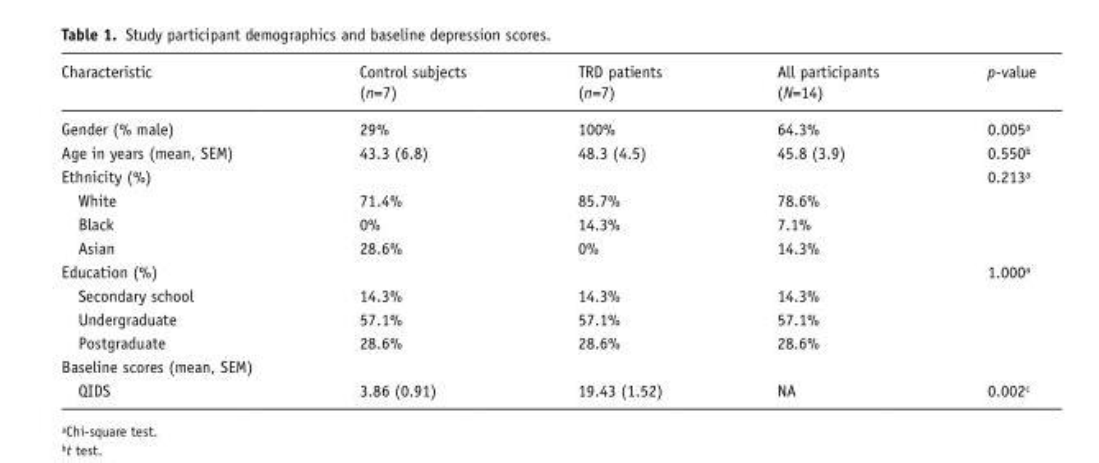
<table><thead><tr><td>Characteristic</td><td>Control subjects (n=7)</td><td>TRD patients (n=7)</td><td>All participants (N=14)</td><td>p-value</td></tr></thead><tbody><tr><td>Gender (% male)</td><td>29%</td><td>100%</td><td>64.3%</td><td>0.005<sup>a</sup></td></tr><tr><td>Age in years (mean, SEM)</td><td>43.3 (6.8)</td><td>48.3 (4.5)</td><td>45.8 (3.9)</td><td>0.550<sup>b</sup></td></tr><tr><td>Ethnicity (%)</td><td></td><td></td><td></td><td>0.213<sup>a</sup></td></tr><tr><td>White</td><td>71.4%</td><td>85.7%</td><td>78.6%</td><td></td></tr><tr><td>Black</td><td>0%</td><td>14.3%</td><td>7.1%</td><td></td></tr><tr><td>Asian</td><td>28.6%</td><td>0%</td><td>14.3%</td><td></td></tr><tr><td>Education (%)</td><td></td><td></td><td></td><td>1.000<sup>a</sup></td></tr><tr><td>Secondary school</td><td>14.3%</td><td>14.3%</td><td>14.3%</td><td></td></tr><tr><td>Undergraduate</td><td>57.1%</td><td>57.1%</td><td>57.1%</td><td></td></tr><tr><td>Postgraduate</td><td>28.6%</td><td>28.6%</td><td>28.6%</td><td></td></tr><tr><td colspan="5">Baseline scores (mean, SEM)</td></tr><tr><td>QIDS</td><td>3.86 (0.91)</td><td>19.43 (1.52)</td><td>NA</td><td>0.002<sup>c</sup></td></tr></tbody></table>